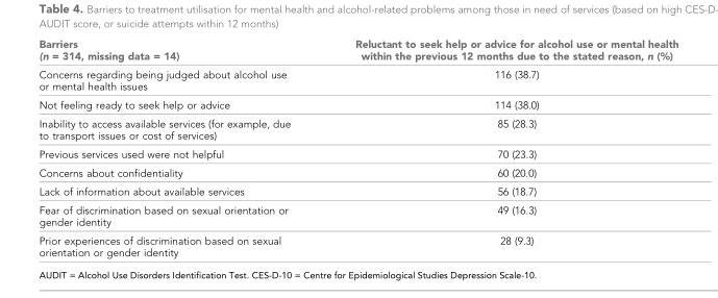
<table><thead><tr><td>Barriers (n = 314, missing data = 14)</td><td>Reluctant to seek help or advice for alcohol use or mental health within the previous 12 months due to the stated reason, n (%)</td></tr></thead><tbody><tr><td>Concerns regarding being judged about alcohol use or mental health issues</td><td>116 (38.7)</td></tr><tr><td>Not feeling ready to seek help or advice</td><td>114 (38.0)</td></tr><tr><td>Inability to access available services (for example, due to transport issues or cost of services)</td><td>85 (28.3)</td></tr><tr><td>Previous services used were not helpful</td><td>70 (23.3)</td></tr><tr><td>Concerns about confidentiality</td><td>60 (20.0)</td></tr><tr><td>Lack of information about available services</td><td>56 (18.7)</td></tr><tr><td>Fear of discrimination based on sexual orientation or gender identity</td><td>49 (16.3)</td></tr><tr><td>Prior experiences of discrimination based on sexual orientation or gender identity</td><td>28 (9.3)</td></tr></tbody></table>